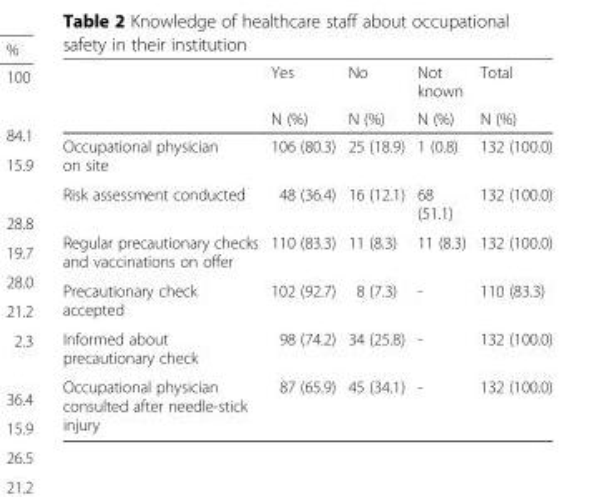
<table><thead><tr><td rowspan="2"></td><td rowspan="2">Yes N (%)</td><td rowspan="2">No N (%)</td><td rowspan="2">Not known N (%)</td><td rowspan="2">Total N (%)</td></tr><tr></tr></thead><tbody><tr><td>Occupational physician on site</td><td>106 (80.3)</td><td>25 (18.9)</td><td>1 (0.8)</td><td>132 (100.0)</td></tr><tr><td>Risk assessment conducted</td><td>48 (36.4)</td><td>16 (12.1)</td><td>68 (51.1)</td><td>132 (100.0)</td></tr><tr><td>Regular precautionary checks and vaccinations on offer</td><td>110 (83.3)</td><td>11 (8.3)</td><td>11 (8.3)</td><td>132 (100.0)</td></tr><tr><td>Precautionary check accepted</td><td>102 (92.7)</td><td>8 (7.3)</td><td>-</td><td>110 (83.3)</td></tr><tr><td>Informed about precautionary check</td><td>98 (74.2)</td><td>34 (25.8)</td><td>-</td><td>132 (100.0)</td></tr><tr><td>Occupational physician consulted after needle-stick injury</td><td>87 (65.9)</td><td>45 (34.1)</td><td>-</td><td>132 (100.0)</td></tr></tbody></table>